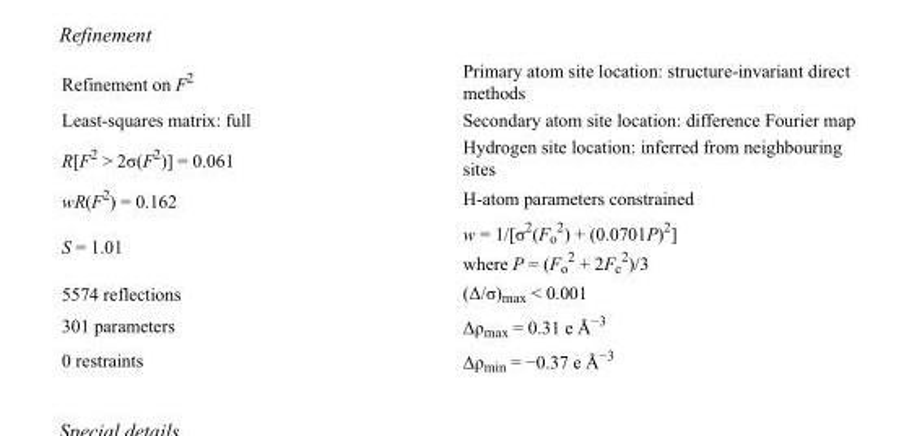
<table><tbody><tr><td>Refinement on F<sup>2</sup></td><td>Primary atom site location: structure-invariant direct methods</td></tr><tr><td>Least-squares matrix: full</td><td>Secondary atom site location: difference Fourier map</td></tr><tr><td>R[F<sup>2</sup> &gt; 2σ(F<sup>2</sup>)] = 0.061</td><td>Hydrogen site location: inferred from neighbouring sites</td></tr><tr><td>wR(F<sup>2</sup>) = 0.162</td><td>H-atom parameters constrained</td></tr><tr><td>S = 1.01</td><td>w = 1/[σ<sup>2</sup>(F<sub>o</sub> <sup>2</sup>) + (0.0701P)<sup>2</sup>] where P = (F<sub>o</sub> <sup>2</sup> + 2F<sub>c</sub> <sup>2</sup>)/3</td></tr><tr><td>5574 reflections</td><td>(Δ/σ)<sub>max</sub> &lt; 0.001</td></tr><tr><td>301 parameters</td><td>Δρ<sub>max</sub> = 0.31 e Å<sup>−3</sup></td></tr><tr><td>0 restraints</td><td>Δρ<sub>min</sub> = −0.37 e Å<sup>−3</sup></td></tr></tbody></table>